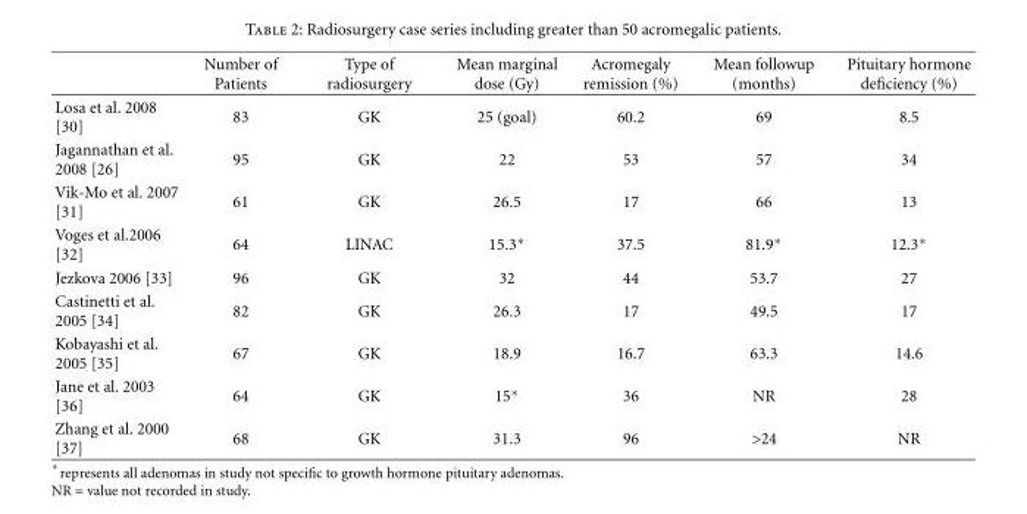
<table><thead><tr><td></td><td>Number of Patients</td><td>Type of radiosurgery</td><td>Mean marginal dose (Gy)</td><td>Acromegaly remission (%)</td><td>Mean followup (months)</td><td>Pituitary hormone deficiency (%)</td></tr></thead><tbody><tr><td>Losa et al. 2008 [30]</td><td>83</td><td>GK</td><td>25 (goal)</td><td>60.2</td><td>69</td><td>8.5</td></tr><tr><td>Jagannathan et al. 2008 [26]</td><td>95</td><td>GK</td><td>22</td><td>53</td><td>57</td><td>34</td></tr><tr><td>Vik-Mo et al. 2007 [31]</td><td>61</td><td>GK</td><td>26.5</td><td>17</td><td>66</td><td>13</td></tr><tr><td>Voges et al.2006 [32]</td><td>64</td><td>LINAC</td><td>15.3∗</td><td>37.5</td><td>81.9∗</td><td>12.3∗</td></tr><tr><td>Jezkova 2006 [33]</td><td>96</td><td>GK</td><td>32</td><td>44</td><td>53.7</td><td>27</td></tr><tr><td>Castinetti et al. 2005 [34]</td><td>82</td><td>GK</td><td>26.3</td><td>17</td><td>49.5</td><td>17</td></tr><tr><td>Kobayashi et al. 2005 [35]</td><td>67</td><td>GK</td><td>18.9</td><td>16.7</td><td>63.3</td><td>14.6</td></tr><tr><td>Jane et al. 2003 [36]</td><td>64</td><td>GK</td><td>15∗</td><td>36</td><td>NR</td><td>28</td></tr><tr><td>Zhang et al. 2000 [37]</td><td>68</td><td>GK</td><td>31.3</td><td>96</td><td>&gt;24</td><td>NR</td></tr></tbody></table>